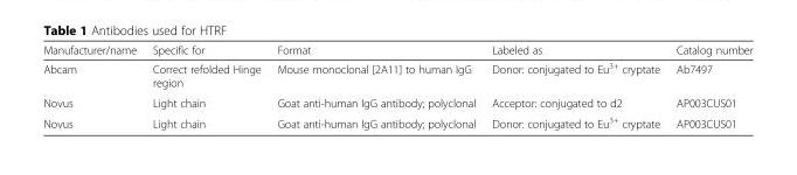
<table><thead><tr><td>Manufacturer/name</td><td>Specific for</td><td>Format</td><td>Labeled as</td><td>Catalog number</td></tr></thead><tbody><tr><td>Abcam</td><td>Correct refolded Hinge region</td><td>Mouse monoclonal [2A11] to human IgG</td><td>Donor: conjugated to Eu<sup>3+</sup> cryptate</td><td>Ab7497</td></tr><tr><td>Novus</td><td>Light chain</td><td>Goat anti-human IgG antibody; polyclonal</td><td>Acceptor: conjugated to d2</td><td>AP003CUS01</td></tr><tr><td>Novus</td><td>Light chain</td><td>Goat anti-human IgG antibody; polyclonal</td><td>Donor: conjugated to Eu<sup>3+</sup> cryptate</td><td>AP003CUS01</td></tr></tbody></table>